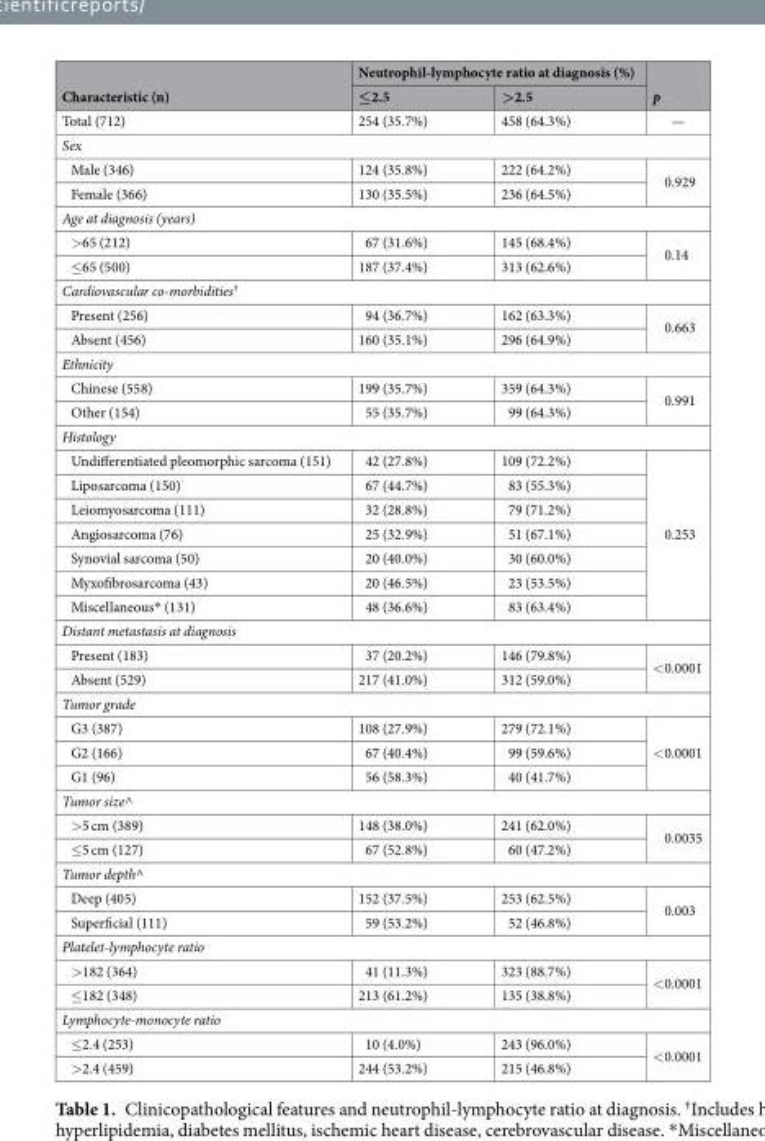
<table><thead><tr><td rowspan="2">Characteristic (n)</td><td colspan="2">Neutrophil-lymphocyte ratio at diagnosis (%)</td><td rowspan="2">p</td></tr><tr><td>≤2.5</td><td>&gt;2.5</td></tr></thead><tbody><tr><td>Total (712)</td><td>254 (35.7%)</td><td>458 (64.3%)</td><td>—</td></tr><tr><td colspan="4">Sex</td></tr><tr><td>Male (346)</td><td>124 (35.8%)</td><td>222 (64.2%)</td><td rowspan="2">0.929</td></tr><tr><td>Female (366)</td><td>130 (35.5%)</td><td>236 (64.5%)</td></tr><tr><td colspan="4">Age at diagnosis (years)</td></tr><tr><td>&gt;65 (212)</td><td>67 (31.6%)</td><td>145 (68.4%)</td><td rowspan="2">0.14</td></tr><tr><td>≤65 (500)</td><td>187 (37.4%)</td><td>313 (62.6%)</td></tr><tr><td colspan="4">Cardiovascular co-morbidities<sup>†</sup></td></tr><tr><td>Present (256)</td><td>94 (36.7%)</td><td>162 (63.3%)</td><td rowspan="2">0.663</td></tr><tr><td>Absent (456)</td><td>160 (35.1%)</td><td>296 (64.9%)</td></tr><tr><td colspan="4">Ethnicity</td></tr><tr><td>Chinese (558)</td><td>199 (35.7%)</td><td>359 (64.3%)</td><td rowspan="2">0.991</td></tr><tr><td>Other (154)</td><td>55 (35.7%)</td><td>99 (64.3%)</td></tr><tr><td colspan="4">Histology</td></tr><tr><td>Undifferentiated pleomorphic sarcoma (151)</td><td>42 (27.8%)</td><td>109 (72.2%)</td><td rowspan="7">0.253</td></tr><tr><td>Liposarcoma (150)</td><td>67 (44.7%)</td><td>83 (55.3%)</td></tr><tr><td>Leiomyosarcoma (111)</td><td>32 (28.8%)</td><td>79 (71.2%)</td></tr><tr><td>Angiosarcoma (76)</td><td>25 (32.9%)</td><td>51 (67.1%)</td></tr><tr><td>Synovial sarcoma (50)</td><td>20 (40.0%)</td><td>30 (60.0%)</td></tr><tr><td>Myxofibrosarcoma (43)</td><td>20 (46.5%)</td><td>23 (53.5%)</td></tr><tr><td>Miscellaneous* (131)</td><td>48 (36.6%)</td><td>83 (63.4%)</td></tr><tr><td colspan="4">Distant metastasis at diagnosis</td></tr><tr><td>Present (183)</td><td>37 (20.2%)</td><td>146 (79.8%)</td><td rowspan="2">&lt;0.0001</td></tr><tr><td>Absent (529)</td><td>217 (41.0%)</td><td>312 (59.0%)</td></tr><tr><td colspan="4">Tumor grade</td></tr><tr><td>G3 (387)</td><td>108 (27.9%)</td><td>279 (72.1%)</td><td rowspan="3">&lt;0.0001</td></tr><tr><td>G2 (166)</td><td>67 (40.4%)</td><td>99 (59.6%)</td></tr><tr><td>G1 (96)</td><td>56 (58.3%)</td><td>40 (41.7%)</td></tr><tr><td colspan="4">Tumor size^</td></tr><tr><td>&gt;5 cm (389)</td><td>148 (38.0%)</td><td>241 (62.0%)</td><td rowspan="2">0.0035</td></tr><tr><td>≤5 cm (127)</td><td>67 (52.8%)</td><td>60 (47.2%)</td></tr><tr><td colspan="4">Tumor depth^</td></tr><tr><td>Deep (405)</td><td>152 (37.5%)</td><td>253 (62.5%)</td><td rowspan="2">0.003</td></tr><tr><td>Superficial (111)</td><td>59 (53.2%)</td><td>52 (46.8%)</td></tr><tr><td colspan="4">Platelet-lymphocyte ratio</td></tr><tr><td>&gt;182 (364)</td><td>41 (11.3%)</td><td>323 (88.7%)</td><td rowspan="2">&lt;0.0001</td></tr><tr><td>≤182 (348)</td><td>213 (61.2%)</td><td>135 (38.8%)</td></tr><tr><td colspan="4">Lymphocyte-monocyte ratio</td></tr><tr><td>≤2.4 (253)</td><td>10 (4.0%)</td><td>243 (96.0%)</td><td rowspan="2">&lt;0.0001</td></tr><tr><td>&gt;2.4 (459)</td><td>244 (53.2%)</td><td>215 (46.8%)</td></tr></tbody></table>